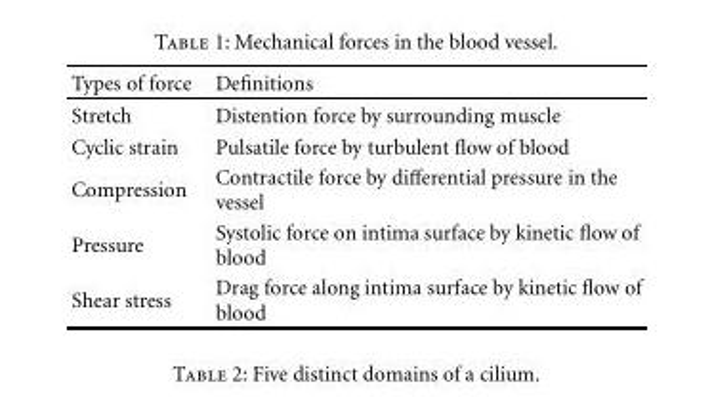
<table><thead><tr><td>Types of force</td><td>Definitions</td></tr></thead><tbody><tr><td>Stretch</td><td>Distention force by surrounding muscle</td></tr><tr><td>Cyclic strain</td><td>Pulsatile force by turbulent flow of blood</td></tr><tr><td>Compression</td><td>Contractile force by differential pressure in the vessel</td></tr><tr><td>Pressure</td><td>Systolic force on intima surface by kinetic flow of blood</td></tr><tr><td>Shear stress</td><td>Drag force along intima surface by kinetic flow of blood</td></tr></tbody></table>